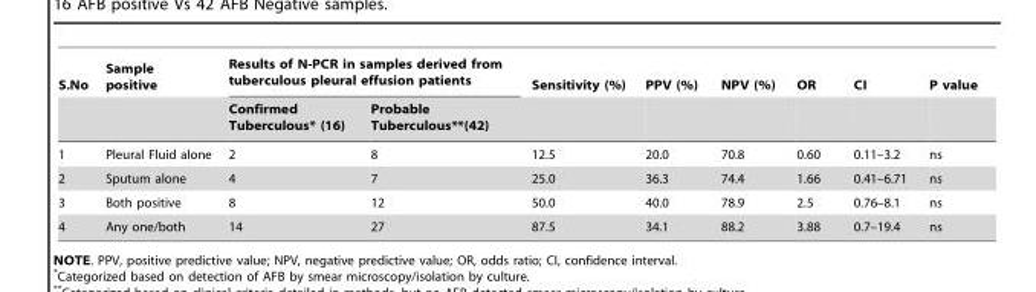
<table><thead><tr><td rowspan="2">S.No</td><td rowspan="2">Sample positive</td><td colspan="2">Results of N-PCR in samples derived from tuberculous pleural effusion patients</td><td rowspan="2">Sensitivity (%)</td><td rowspan="2">PPV (%)</td><td rowspan="2">NPV (%)</td><td rowspan="2">OR</td><td rowspan="2">CI</td><td rowspan="2">P value</td></tr><tr><td>Confirmed Tuberculous* (16)</td><td>Probable Tuberculous**(42)</td></tr></thead><tbody><tr><td>1</td><td>Pleural Fluid alone</td><td>2</td><td>8</td><td>12.5</td><td>20.0</td><td>70.8</td><td>0.60</td><td>0.11–3.2</td><td>ns</td></tr><tr><td>2</td><td>Sputum alone</td><td>4</td><td>7</td><td>25.0</td><td>36.3</td><td>74.4</td><td>1.66</td><td>0.41–6.71</td><td>ns</td></tr><tr><td>3</td><td>Both positive</td><td>8</td><td>12</td><td>50.0</td><td>40.0</td><td>78.9</td><td>2.5</td><td>0.76–8.1</td><td>ns</td></tr><tr><td>4</td><td>Any one/both</td><td>14</td><td>27</td><td>87.5</td><td>34.1</td><td>88.2</td><td>3.88</td><td>0.7–19.4</td><td>ns</td></tr></tbody></table>